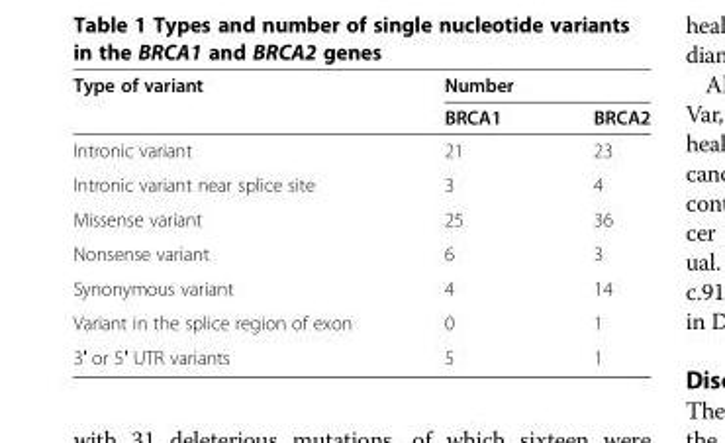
<table><thead><tr><td rowspan="2">Type of variant</td><td colspan="2">Number</td></tr><tr><td>BRCA1</td><td>BRCA2</td></tr></thead><tbody><tr><td>Intronic variant</td><td>21</td><td>23</td></tr><tr><td>Intronic variant near splice site</td><td>3</td><td>4</td></tr><tr><td>Missense variant</td><td>25</td><td>36</td></tr><tr><td>Nonsense variant</td><td>6</td><td>3</td></tr><tr><td>Synonymous variant</td><td>4</td><td>14</td></tr><tr><td>Variant in the splice region of exon</td><td>0</td><td>1</td></tr><tr><td>3′ or 5′ UTR variants</td><td>5</td><td>1</td></tr></tbody></table>